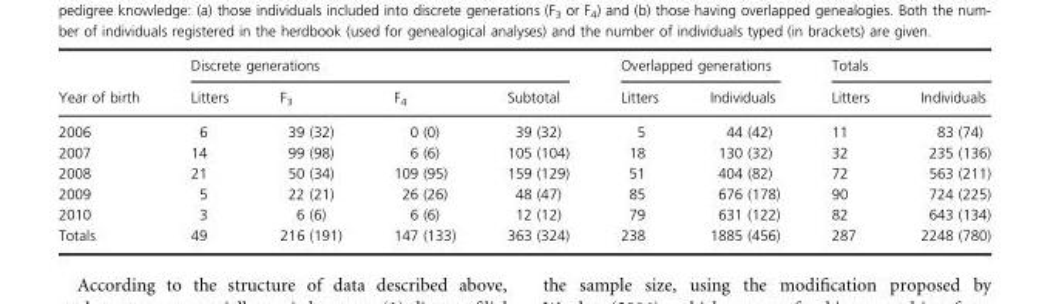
<table><thead><tr><td rowspan="2">Year of birth</td><td colspan="4">Discrete generations</td><td colspan="2">Overlapped generations</td><td colspan="2">Totals</td></tr><tr><td>Litters</td><td>F<sub>3</sub></td><td>F<sub>4</sub></td><td>Subtotal</td><td>Litters</td><td>Individuals</td><td>Litters</td><td>Individuals</td></tr></thead><tbody><tr><td>2006</td><td>6</td><td>39 (32)</td><td>0 (0)</td><td>39 (32)</td><td>5</td><td>44 (42)</td><td>11</td><td>83 (74)</td></tr><tr><td>2007</td><td>14</td><td>99 (98)</td><td>6 (6)</td><td>105 (104)</td><td>18</td><td>130 (32)</td><td>32</td><td>235 (136)</td></tr><tr><td>2008</td><td>21</td><td>50 (34)</td><td>109 (95)</td><td>159 (129)</td><td>51</td><td>404 (82)</td><td>72</td><td>563 (211)</td></tr><tr><td>2009</td><td>5</td><td>22 (21)</td><td>26 (26)</td><td>48 (47)</td><td>85</td><td>676 (178)</td><td>90</td><td>724 (225)</td></tr><tr><td>2010</td><td>3</td><td>6 (6)</td><td>6 (6)</td><td>12 (12)</td><td>79</td><td>631 (122)</td><td>82</td><td>643 (134)</td></tr><tr><td>Totals</td><td>49</td><td>216 (191)</td><td>147 (133)</td><td>363 (324)</td><td>238</td><td>1885 (456)</td><td>287</td><td>2248 (780)</td></tr></tbody></table>